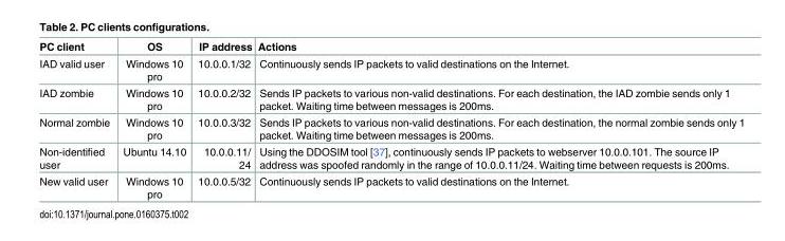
<table><thead><tr><td>PC client</td><td>OS</td><td>IP address</td><td>Actions</td></tr></thead><tbody><tr><td>IAD valid user</td><td>Windows 10 pro</td><td>10.0.0.1/32</td><td>Continuously sends IP packets to valid destinations on the Internet.</td></tr><tr><td>IAD zombie</td><td>Windows 10 pro</td><td>10.0.0.2/32</td><td>Sends IP packets to various non-valid destinations. For each destination, the IAD zombie sends only 1 packet. Waiting time between messages is 200ms.</td></tr><tr><td>Normal zombie</td><td>Windows 10 pro</td><td>10.0.0.3/32</td><td>Sends IP packets to various non-valid destinations. For each destination, the normal zombie sends only 1 packet. Waiting time between messages is 200ms.</td></tr><tr><td>Non-identified user</td><td>Ubuntu 14.10</td><td>10.0.0.11/ 24</td><td>Using the DDOSIM tool [37], continuously sends IP packets to webserver 10.0.0.101. The source IP address was spoofed randomly in the range of 10.0.0.11/24. Waiting time between requests is 200ms.</td></tr><tr><td>New valid user</td><td>Windows 10 pro</td><td>10.0.0.5/32</td><td>Continuously sends IP packets to valid destinations on the Internet.</td></tr></tbody></table>